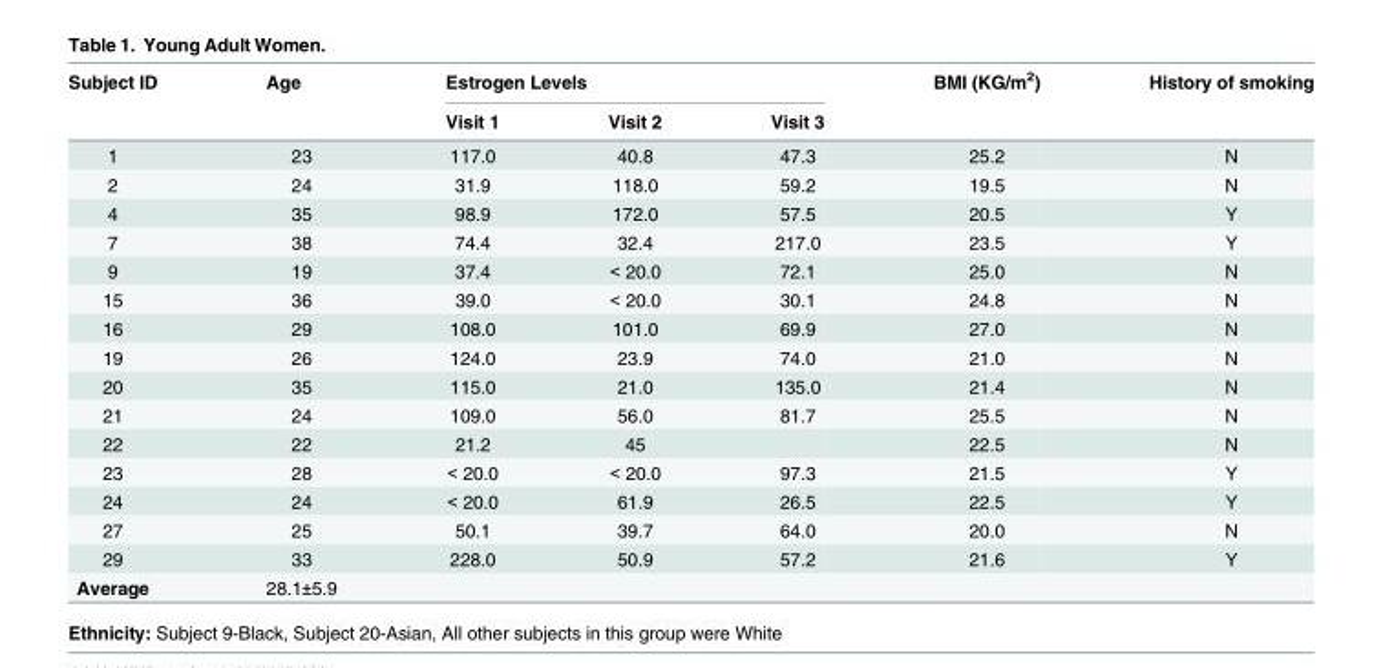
<table><thead><tr><td rowspan="2">Subject ID</td><td rowspan="2">Age</td><td colspan="3">Estrogen Levels</td><td rowspan="2">BMI (KG/m<sup>2</sup>)</td><td rowspan="2">History of smoking</td></tr><tr><td>Visit 1</td><td>Visit 2</td><td>Visit 3</td></tr></thead><tbody><tr><td>1</td><td>23</td><td>117.0</td><td>40.8</td><td>47.3</td><td>25.2</td><td>N</td></tr><tr><td>2</td><td>24</td><td>31.9</td><td>118.0</td><td>59.2</td><td>19.5</td><td>N</td></tr><tr><td>4</td><td>35</td><td>98.9</td><td>172.0</td><td>57.5</td><td>20.5</td><td>Y</td></tr><tr><td>7</td><td>38</td><td>74.4</td><td>32.4</td><td>217.0</td><td>23.5</td><td>Y</td></tr><tr><td>9</td><td>19</td><td>37.4</td><td>&lt; 20.0</td><td>72.1</td><td>25.0</td><td>N</td></tr><tr><td>15</td><td>36</td><td>39.0</td><td>&lt; 20.0</td><td>30.1</td><td>24.8</td><td>N</td></tr><tr><td>16</td><td>29</td><td>108.0</td><td>101.0</td><td>69.9</td><td>27.0</td><td>N</td></tr><tr><td>19</td><td>26</td><td>124.0</td><td>23.9</td><td>74.0</td><td>21.0</td><td>N</td></tr><tr><td>20</td><td>35</td><td>115.0</td><td>21.0</td><td>135.0</td><td>21.4</td><td>N</td></tr><tr><td>21</td><td>24</td><td>109.0</td><td>56.0</td><td>81.7</td><td>25.5</td><td>N</td></tr><tr><td>22</td><td>22</td><td>21.2</td><td>45</td><td></td><td>22.5</td><td>N</td></tr><tr><td>23</td><td>28</td><td>&lt; 20.0</td><td>&lt; 20.0</td><td>97.3</td><td>21.5</td><td>Y</td></tr><tr><td>24</td><td>24</td><td>&lt; 20.0</td><td>61.9</td><td>26.5</td><td>22.5</td><td>Y</td></tr><tr><td>27</td><td>25</td><td>50.1</td><td>39.7</td><td>64.0</td><td>20.0</td><td>N</td></tr><tr><td>29</td><td>33</td><td>228.0</td><td>50.9</td><td>57.2</td><td>21.6</td><td>Y</td></tr><tr><td>Average</td><td>28.1±5.9</td><td colspan="5"></td></tr></tbody></table>